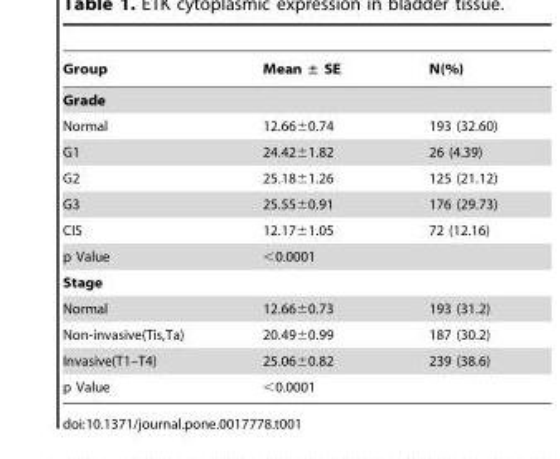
<table><thead><tr><td>Group</td><td>Mean ± SE</td><td>N(%)</td></tr></thead><tbody><tr><td colspan="3">Grade</td></tr><tr><td>Normal</td><td>12.66±0.74</td><td>193 (32.60)</td></tr><tr><td>G1</td><td>24.42±1.82</td><td>26 (4.39)</td></tr><tr><td>G2</td><td>25.18±1.26</td><td>125 (21.12)</td></tr><tr><td>G3</td><td>25.55±0.91</td><td>176 (29.73)</td></tr><tr><td>CIS</td><td>12.17±1.05</td><td>72 (12.16)</td></tr><tr><td>p Value</td><td>&lt;0.0001</td><td></td></tr><tr><td colspan="3">Stage</td></tr><tr><td>Normal</td><td>12.66±0.73</td><td>193 (31.2)</td></tr><tr><td>Non-invasive(Tis,Ta)</td><td>20.49±0.99</td><td>187 (30.2)</td></tr><tr><td>Invasive(T1–T4)</td><td>25.06±0.82</td><td>239 (38.6)</td></tr><tr><td>p Value</td><td>&lt;0.0001</td><td></td></tr></tbody></table>